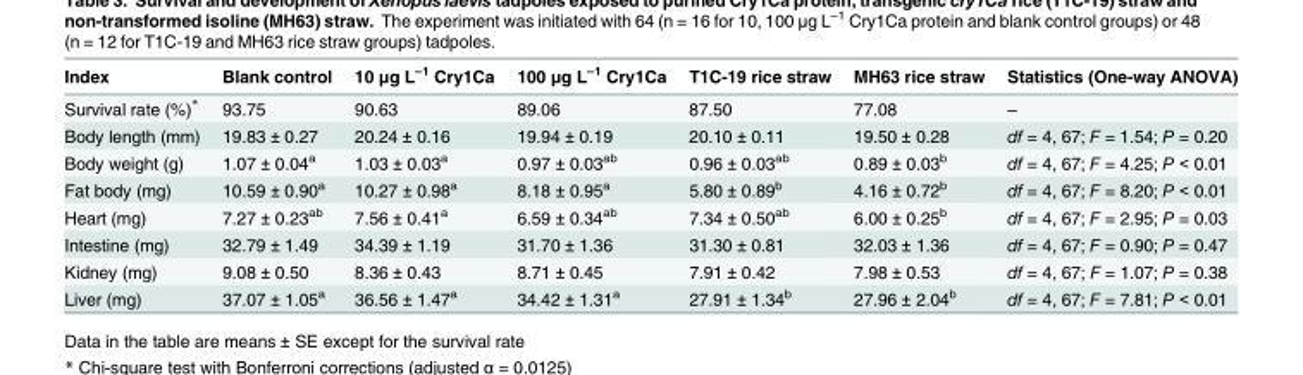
<table><thead><tr><td>Index</td><td>Blank control</td><td>10 μg L<sup>–1</sup> Cry1Ca</td><td>100 μg L<sup>–1</sup> Cry1Ca</td><td>T1C-19 rice straw</td><td>MH63 rice straw</td><td>Statistics (One-way ANOVA)</td></tr></thead><tbody><tr><td>Survival rate (%)*</td><td>93.75</td><td>90.63</td><td>89.06</td><td>87.50</td><td>77.08</td><td>–</td></tr><tr><td>Body length (mm)</td><td>19.83 ± 0.27</td><td>20.24 ± 0.16</td><td>19.94 ± 0.19</td><td>20.10 ± 0.11</td><td>19.50 ± 0.28</td><td>df = 4, 67; F = 1.54; P = 0.20</td></tr><tr><td>Body weight (g)</td><td>1.07 ± 0.04<sup>a</sup></td><td>1.03 ± 0.03<sup>a</sup></td><td>0.97 ± 0.03<sup>ab</sup></td><td>0.96 ± 0.03<sup>ab</sup></td><td>0.89 ± 0.03<sup>b</sup></td><td>df = 4, 67; F = 4.25; P &lt; 0.01</td></tr><tr><td>Fat body (mg)</td><td>10.59 ± 0.90<sup>a</sup></td><td>10.27 ± 0.98<sup>a</sup></td><td>8.18 ± 0.95<sup>a</sup></td><td>5.80 ± 0.89<sup>b</sup></td><td>4.16 ± 0.72<sup>b</sup></td><td>df = 4, 67; F = 8.20; P &lt; 0.01</td></tr><tr><td>Heart (mg)</td><td>7.27 ± 0.23<sup>ab</sup></td><td>7.56 ± 0.41<sup>a</sup></td><td>6.59 ± 0.34<sup>ab</sup></td><td>7.34 ± 0.50<sup>ab</sup></td><td>6.00 ± 0.25<sup>b</sup></td><td>df = 4, 67; F = 2.95; P = 0.03</td></tr><tr><td>Intestine (mg)</td><td>32.79 ± 1.49</td><td>34.39 ± 1.19</td><td>31.70 ± 1.36</td><td>31.30 ± 0.81</td><td>32.03 ± 1.36</td><td>df = 4, 67; F = 0.90; P = 0.47</td></tr><tr><td>Kidney (mg)</td><td>9.08 ± 0.50</td><td>8.36 ± 0.43</td><td>8.71 ± 0.45</td><td>7.91 ± 0.42</td><td>7.98 ± 0.53</td><td>df = 4, 67; F = 1.07; P = 0.38</td></tr><tr><td>Liver (mg)</td><td>37.07 ± 1.05<sup>a</sup></td><td>36.56 ± 1.47<sup>a</sup></td><td>34.42 ± 1.31<sup>a</sup></td><td>27.91 ± 1.34<sup>b</sup></td><td>27.96 ± 2.04<sup>b</sup></td><td>df = 4, 67; F = 7.81; P &lt; 0.01</td></tr></tbody></table>